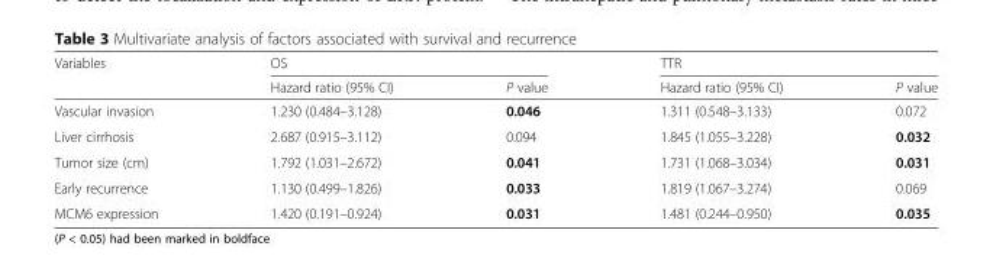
<table><thead><tr><td rowspan="2">Variables</td><td colspan="2">OS</td><td colspan="2">TTR</td></tr><tr><td>Hazard ratio (95% CI)</td><td>P value</td><td>Hazard ratio (95% CI)</td><td>P value</td></tr></thead><tbody><tr><td>Vascular invasion</td><td>1.230 (0.484–3.128)</td><td>0.046</td><td>1.311 (0.548–3.133)</td><td>0.072</td></tr><tr><td>Liver cirrhosis</td><td>2.687 (0.915–3.112)</td><td>0.094</td><td>1.845 (1.055–3.228)</td><td>0.032</td></tr><tr><td>Tumor size (cm)</td><td>1.792 (1.031–2.672)</td><td>0.041</td><td>1.731 (1.068–3.034)</td><td>0.031</td></tr><tr><td>Early recurrence</td><td>1.130 (0.499–1.826)</td><td>0.033</td><td>1.819 (1.067–3.274)</td><td>0.069</td></tr><tr><td>MCM6 expression</td><td>1.420 (0.191–0.924)</td><td>0.031</td><td>1.481 (0.244–0.950)</td><td>0.035</td></tr></tbody></table>